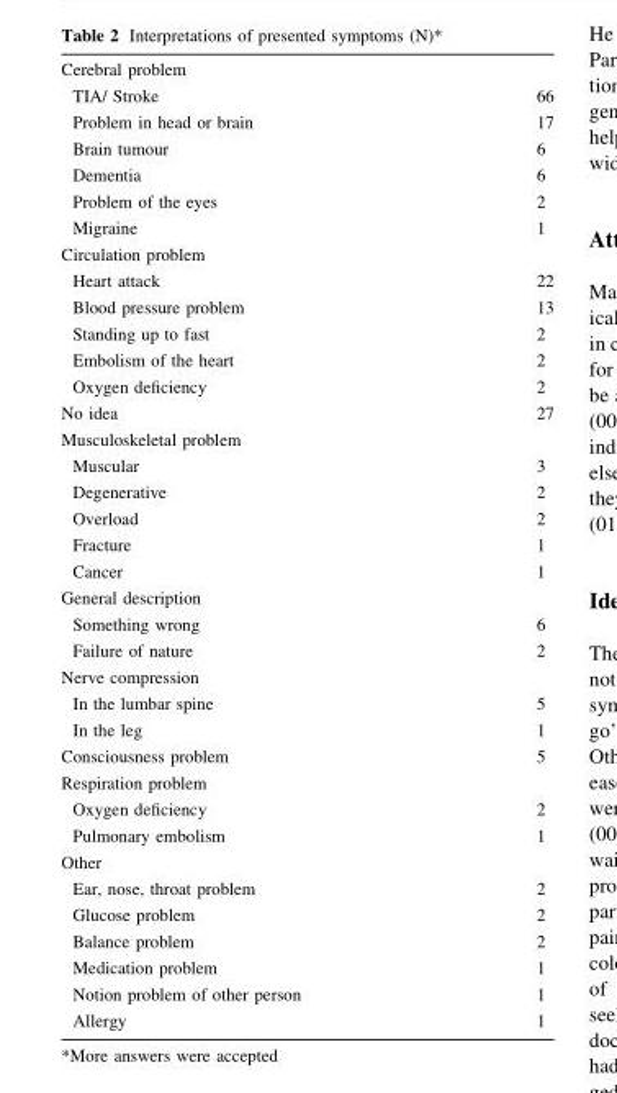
<table><tbody><tr><td colspan="2">Cerebral problem</td></tr><tr><td>TIA/ Stroke</td><td>66</td></tr><tr><td>Problem in head or brain</td><td>17</td></tr><tr><td>Brain tumour</td><td>6</td></tr><tr><td>Dementia</td><td>6</td></tr><tr><td>Problem of the eyes</td><td>2</td></tr><tr><td>Migraine</td><td>1</td></tr><tr><td colspan="2">Circulation problem</td></tr><tr><td>Heart attack</td><td>22</td></tr><tr><td>Blood pressure problem</td><td>13</td></tr><tr><td>Standing up to fast</td><td>2</td></tr><tr><td>Embolism of the heart</td><td>2</td></tr><tr><td>Oxygen deficiency</td><td>2</td></tr><tr><td>No idea</td><td>27</td></tr><tr><td colspan="2">Musculoskeletal problem</td></tr><tr><td>Muscular</td><td>3</td></tr><tr><td>Degenerative</td><td>2</td></tr><tr><td>Overload</td><td>2</td></tr><tr><td>Fracture</td><td>1</td></tr><tr><td>Cancer</td><td>1</td></tr><tr><td colspan="2">General description</td></tr><tr><td>Something wrong</td><td>6</td></tr><tr><td>Failure of nature</td><td>2</td></tr><tr><td colspan="2">Nerve compression</td></tr><tr><td>In the lumbar spine</td><td>5</td></tr><tr><td>In the leg</td><td>1</td></tr><tr><td>Consciousness problem</td><td>5</td></tr><tr><td colspan="2">Respiration problem</td></tr><tr><td>Oxygen deficiency</td><td>2</td></tr><tr><td>Pulmonary embolism</td><td>1</td></tr><tr><td colspan="2">Other</td></tr><tr><td>Ear, nose, throat problem</td><td>2</td></tr><tr><td>Glucose problem</td><td>2</td></tr><tr><td>Balance problem</td><td>2</td></tr><tr><td>Medication problem</td><td>1</td></tr><tr><td>Notion problem of other person</td><td>1</td></tr><tr><td>Allergy</td><td>1</td></tr></tbody></table>